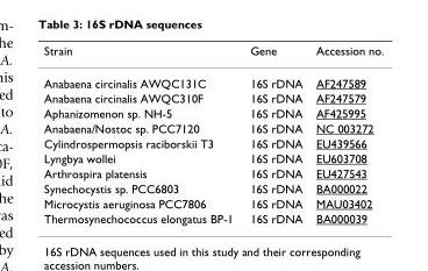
<table><thead><tr><td>Strain</td><td>Gene</td><td>Accession no.</td></tr></thead><tbody><tr><td>Anabaena circinalis AWQC131C</td><td>16S rDNA</td><td>AF247589</td></tr><tr><td>Anabaena circinalis AWQC310F</td><td>16S rDNA</td><td>AF247579</td></tr><tr><td>Aphanizomenon sp. NH-5</td><td>16S rDNA</td><td>AF425995</td></tr><tr><td>Anabaena/Nostoc sp. PCC7120</td><td>16S rDNA</td><td>NC 003272</td></tr><tr><td>Cylindrospermopsis raciborskii T3</td><td>16S rDNA</td><td>EU439566</td></tr><tr><td>Lyngbya wollei</td><td>16S rDNA</td><td>EU603708</td></tr><tr><td>Arthrospira platensis</td><td>16S rDNA</td><td>EU427543</td></tr><tr><td>Synechocystis sp. PCC6803</td><td>16S rDNA</td><td>BA000022</td></tr><tr><td>Microcystis aeruginosa PCC7806</td><td>16S rDNA</td><td>MAU03402</td></tr><tr><td>Thermosynechococcus elongatus BP-1</td><td>16S rDNA</td><td>BA000039</td></tr></tbody></table>